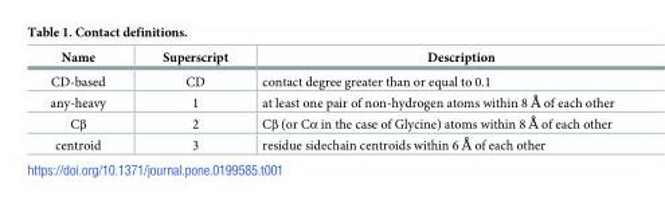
<table><thead><tr><td>Name</td><td>Superscript</td><td>Description</td></tr></thead><tbody><tr><td>CD-based</td><td>CD</td><td>contact degree greater than or equal to 0.1</td></tr><tr><td>any-heavy</td><td>1</td><td>at least one pair of non-hydrogen atoms within 8 Å of each other</td></tr><tr><td>Cβ</td><td>2</td><td>Cβ (or Cα in the case of Glycine) atoms within 8 Å of each other</td></tr><tr><td>centroid</td><td>3</td><td>residue sidechain centroids within 6 Å of each other</td></tr></tbody></table>